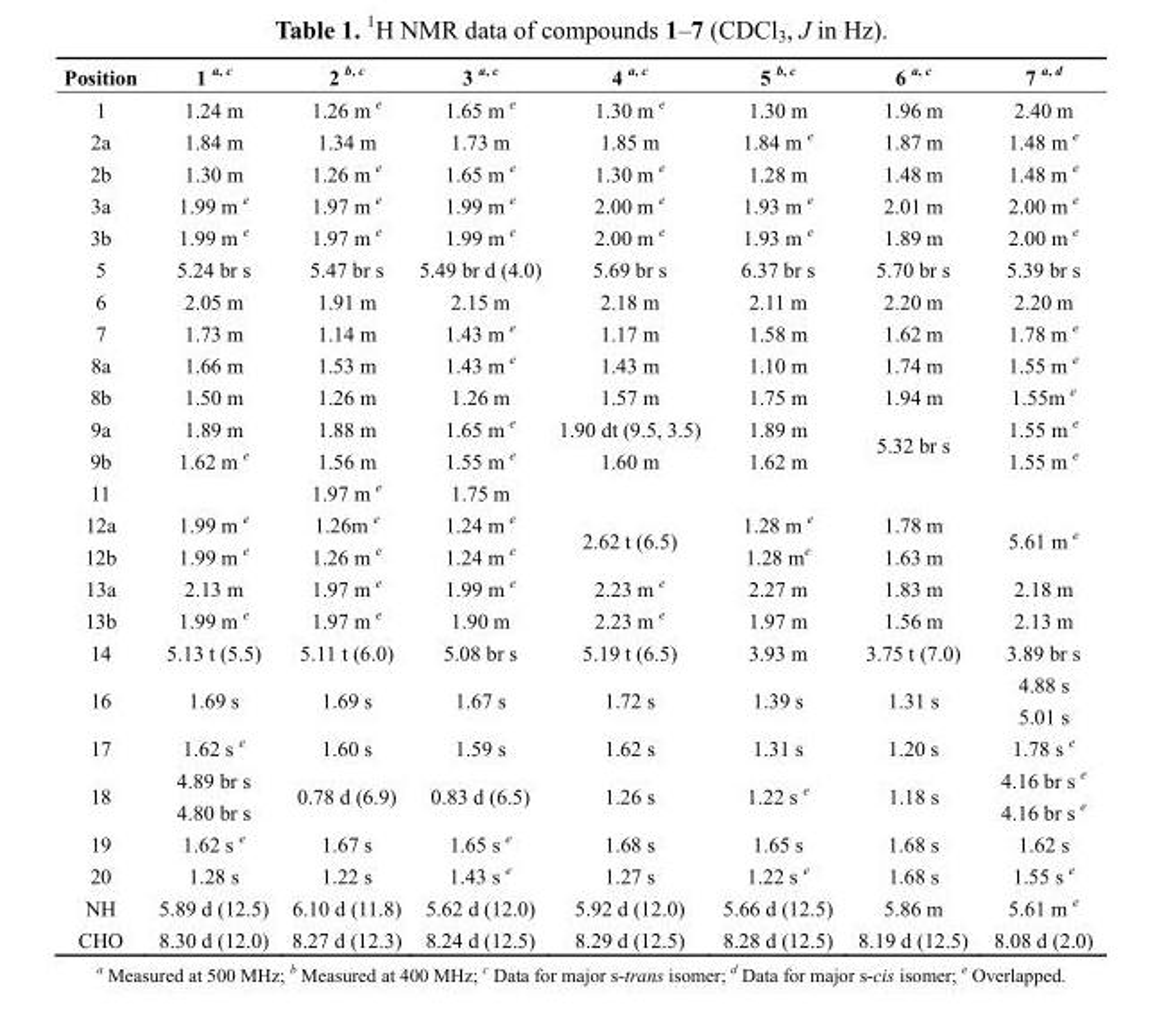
<table><thead><tr><td>Position</td><td>1 <sup>a, c</sup></td><td>2 <sup>b, c</sup></td><td>3 <sup>a, c</sup></td><td>4 <sup>a, c</sup></td><td>5 <sup>b, c</sup></td><td>6 <sup>a, c</sup></td><td>7 <sup>a, d</sup></td></tr></thead><tbody><tr><td>1</td><td>1.24 m</td><td>1.26 m <sup>e</sup></td><td>1.65 m <sup>e</sup></td><td>1.30 m <sup>e</sup></td><td>1.30 m</td><td>1.96 m</td><td>2.40 m</td></tr><tr><td>2a</td><td>1.84 m</td><td>1.34 m</td><td>1.73 m</td><td>1.85 m</td><td>1.84 m <sup>e</sup></td><td>1.87 m</td><td>1.48 m <sup>e</sup></td></tr><tr><td>2b</td><td>1.30 m</td><td>1.26 m <sup>e</sup></td><td>1.65 m <sup>e</sup></td><td>1.30 m <sup>e</sup></td><td>1.28 m</td><td>1.48 m</td><td>1.48 m <sup>e</sup></td></tr><tr><td>3a</td><td>1.99 m <sup>e</sup></td><td>1.97 m <sup>e</sup></td><td>1.99 m <sup>e</sup></td><td>2.00 m <sup>e</sup></td><td>1.93 m <sup>e</sup></td><td>2.01 m</td><td>2.00 m <sup>e</sup></td></tr><tr><td>3b</td><td>1.99 m <sup>e</sup></td><td>1.97 m <sup>e</sup></td><td>1.99 m <sup>e</sup></td><td>2.00 m <sup>e</sup></td><td>1.93 m <sup>e</sup></td><td>1.89 m</td><td>2.00 m <sup>e</sup></td></tr><tr><td>5</td><td>5.24 br s</td><td>5.47 br s</td><td>5.49 br d (4.0)</td><td>5.69 br s</td><td>6.37 br s</td><td>5.70 br s</td><td>5.39 br s</td></tr><tr><td>6</td><td>2.05 m</td><td>1.91 m</td><td>2.15 m</td><td>2.18 m</td><td>2.11 m</td><td>2.20 m</td><td>2.20 m</td></tr><tr><td>7</td><td>1.73 m</td><td>1.14 m</td><td>1.43 m <sup>e</sup></td><td>1.17 m</td><td>1.58 m</td><td>1.62 m</td><td>1.78 m <sup>e</sup></td></tr><tr><td>8a</td><td>1.66 m</td><td>1.53 m</td><td>1.43 m <sup>e</sup></td><td>1.43 m</td><td>1.10 m</td><td>1.74 m</td><td>1.55 m <sup>e</sup></td></tr><tr><td>8b</td><td>1.50 m</td><td>1.26 m</td><td>1.26 m</td><td>1.57 m</td><td>1.75 m</td><td>1.94 m</td><td>1.55m <sup>e</sup></td></tr><tr><td>9a</td><td>1.89 m</td><td>1.88 m</td><td>1.65 m <sup>e</sup></td><td>1.90 dt (9.5, 3.5)</td><td>1.89 m</td><td rowspan="2">5.32 br s</td><td>1.55 m <sup>e</sup></td></tr><tr><td>9b</td><td>1.62 m <sup>e</sup></td><td>1.56 m</td><td>1.55 m <sup>e</sup></td><td>1.60 m</td><td>1.62 m</td><td>1.55 m <sup>e</sup></td></tr><tr><td>11</td><td></td><td>1.97 m <sup>e</sup></td><td>1.75 m</td><td></td><td></td><td></td><td></td></tr><tr><td>12a</td><td>1.99 m <sup>e</sup></td><td>1.26m <sup>e</sup></td><td>1.24 m <sup>e</sup></td><td rowspan="2">2.62 t (6.5)</td><td>1.28 m <sup>e</sup></td><td>1.78 m</td><td rowspan="2">5.61 m <sup>e</sup></td></tr><tr><td>12b</td><td>1.99 m <sup>e</sup></td><td>1.26 m <sup>e</sup></td><td>1.24 m <sup>e</sup></td><td>1.28 m<sup>e</sup></td><td>1.63 m</td></tr><tr><td>13a</td><td>2.13 m</td><td>1.97 m <sup>e</sup></td><td>1.99 m <sup>e</sup></td><td>2.23 m <sup>e</sup></td><td>2.27 m</td><td>1.83 m</td><td>2.18 m</td></tr><tr><td>13b</td><td>1.99 m <sup>e</sup></td><td>1.97 m <sup>e</sup></td><td>1.90 m</td><td>2.23 m <sup>e</sup></td><td>1.97 m</td><td>1.56 m</td><td>2.13 m</td></tr><tr><td>14</td><td>5.13 t (5.5)</td><td>5.11 t (6.0)</td><td>5.08 br s</td><td>5.19 t (6.5)</td><td>3.93 m</td><td>3.75 t (7.0)</td><td>3.89 br s</td></tr><tr><td rowspan="2">16</td><td rowspan="2">1.69 s</td><td rowspan="2">1.69 s</td><td rowspan="2">1.67 s</td><td rowspan="2">1.72 s</td><td rowspan="2">1.39 s</td><td rowspan="2">1.31 s</td><td>4.88 s</td></tr><tr><td>5.01 s</td></tr><tr><td>17</td><td>1.62 s <sup>e</sup></td><td>1.60 s</td><td>1.59 s</td><td>1.62 s</td><td>1.31 s</td><td>1.20 s</td><td>1.78 s <sup>e</sup></td></tr><tr><td rowspan="2">18</td><td>4.89 br s</td><td rowspan="2">0.78 d (6.9)</td><td rowspan="2">0.83 d (6.5)</td><td rowspan="2">1.26 s</td><td rowspan="2">1.22 s <sup>e</sup></td><td rowspan="2">1.18 s</td><td>4.16 br s <sup>e</sup></td></tr><tr><td>4.80 br s</td><td>4.16 br s <sup>e</sup></td></tr><tr><td>19</td><td>1.62 s <sup>e</sup></td><td>1.67 s</td><td>1.65 s <sup>e</sup></td><td>1.68 s</td><td>1.65 s</td><td>1.68 s</td><td>1.62 s</td></tr><tr><td>20</td><td>1.28 s</td><td>1.22 s</td><td>1.43 s <sup>e</sup></td><td>1.27 s</td><td>1.22 s <sup>e</sup></td><td>1.68 s</td><td>1.55 s <sup>e</sup></td></tr><tr><td>NH</td><td>5.89 d (12.5)</td><td>6.10 d (11.8)</td><td>5.62 d (12.0)</td><td>5.92 d (12.0)</td><td>5.66 d (12.5)</td><td>5.86 m</td><td>5.61 m <sup>e</sup></td></tr><tr><td>CHO</td><td>8.30 d (12.0)</td><td>8.27 d (12.3)</td><td>8.24 d (12.5)</td><td>8.29 d (12.5)</td><td>8.28 d (12.5)</td><td>8.19 d (12.5)</td><td>8.08 d (2.0)</td></tr></tbody></table>